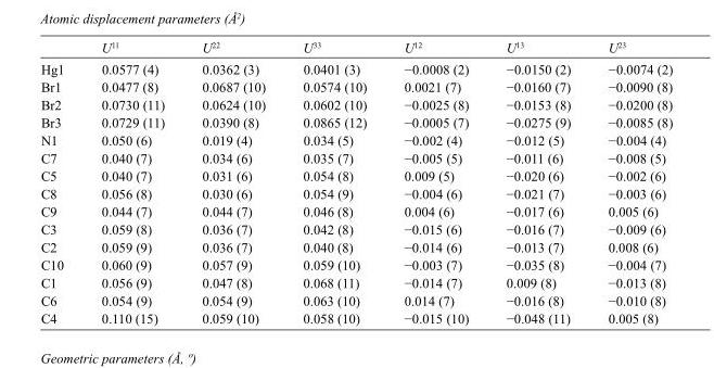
<table><thead><tr><td></td><td>U<sup>11</sup></td><td>U<sup>22</sup></td><td>U<sup>33</sup></td><td>U<sup>12</sup></td><td>U<sup>13</sup></td><td>U<sup>23</sup></td></tr></thead><tbody><tr><td>Hg1</td><td>0.0577 (4)</td><td>0.0362 (3)</td><td>0.0401 (3)</td><td>−0.0008 (2)</td><td>−0.0150 (2)</td><td>−0.0074 (2)</td></tr><tr><td>Br1</td><td>0.0477 (8)</td><td>0.0687 (10)</td><td>0.0574 (10)</td><td>0.0021 (7)</td><td>−0.0160 (7)</td><td>−0.0090 (8)</td></tr><tr><td>Br2</td><td>0.0730 (11)</td><td>0.0624 (10)</td><td>0.0602 (10)</td><td>−0.0025 (8)</td><td>−0.0153 (8)</td><td>−0.0200 (8)</td></tr><tr><td>Br3</td><td>0.0729 (11)</td><td>0.0390 (8)</td><td>0.0865 (12)</td><td>−0.0005 (7)</td><td>−0.0275 (9)</td><td>−0.0085 (8)</td></tr><tr><td>N1</td><td>0.050 (6)</td><td>0.019 (4)</td><td>0.034 (5)</td><td>−0.002 (4)</td><td>−0.012 (5)</td><td>−0.004 (4)</td></tr><tr><td>C7</td><td>0.040 (7)</td><td>0.034 (6)</td><td>0.035 (7)</td><td>−0.005 (5)</td><td>−0.011 (6)</td><td>−0.008 (5)</td></tr><tr><td>C5</td><td>0.040 (7)</td><td>0.031 (6)</td><td>0.054 (8)</td><td>0.009 (5)</td><td>−0.020 (6)</td><td>−0.002 (6)</td></tr><tr><td>C8</td><td>0.056 (8)</td><td>0.030 (6)</td><td>0.054 (9)</td><td>−0.004 (6)</td><td>−0.021 (7)</td><td>−0.003 (6)</td></tr><tr><td>C9</td><td>0.044 (7)</td><td>0.044 (7)</td><td>0.046 (8)</td><td>0.004 (6)</td><td>−0.017 (6)</td><td>0.005 (6)</td></tr><tr><td>C3</td><td>0.059 (8)</td><td>0.036 (7)</td><td>0.042 (8)</td><td>−0.015 (6)</td><td>−0.016 (7)</td><td>−0.009 (6)</td></tr><tr><td>C2</td><td>0.059 (9)</td><td>0.036 (7)</td><td>0.040 (8)</td><td>−0.014 (6)</td><td>−0.013 (7)</td><td>0.008 (6)</td></tr><tr><td>C10</td><td>0.060 (9)</td><td>0.057 (9)</td><td>0.059 (10)</td><td>−0.003 (7)</td><td>−0.035 (8)</td><td>−0.004 (7)</td></tr><tr><td>C1</td><td>0.056 (9)</td><td>0.047 (8)</td><td>0.068 (11)</td><td>−0.014 (7)</td><td>0.009 (8)</td><td>−0.013 (8)</td></tr><tr><td>C6</td><td>0.054 (9)</td><td>0.054 (9)</td><td>0.063 (10)</td><td>0.014 (7)</td><td>−0.016 (8)</td><td>−0.010 (8)</td></tr><tr><td>C4</td><td>0.110 (15)</td><td>0.059 (10)</td><td>0.058 (10)</td><td>−0.015 (10)</td><td>−0.048 (11)</td><td>0.005 (8)</td></tr></tbody></table>